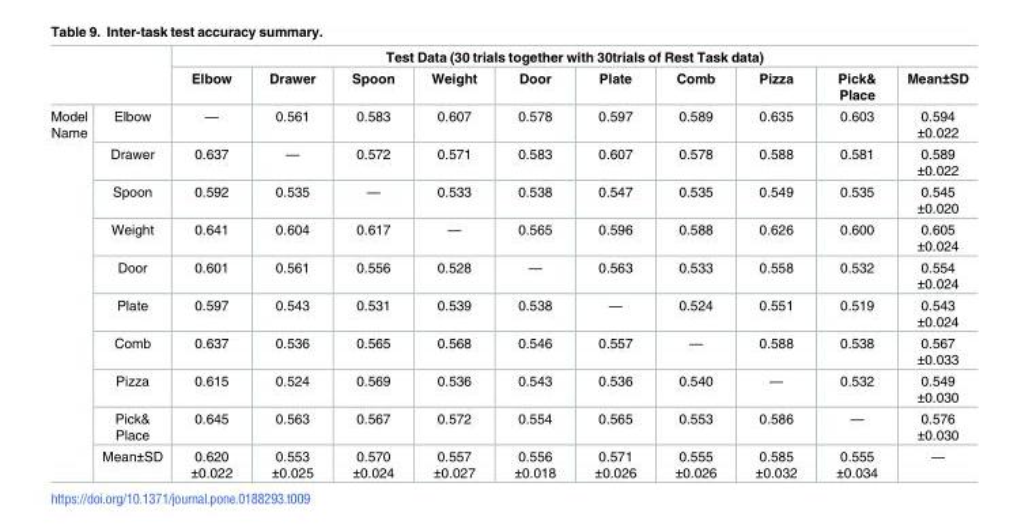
<table><thead><tr><td rowspan="2"></td><td rowspan="2"></td><td colspan="10">Test Data (30 trials together with 30trials of Rest Task data)</td></tr><tr><td>Elbow</td><td>Drawer</td><td>Spoon</td><td>Weight</td><td>Door</td><td>Plate</td><td>Comb</td><td>Pizza</td><td>Pick&amp; Place</td><td>Mean±SD</td></tr></thead><tbody><tr><td rowspan="10">Model Name</td><td>Elbow</td><td>—</td><td>0.561</td><td>0.583</td><td>0.607</td><td>0.578</td><td>0.597</td><td>0.589</td><td>0.635</td><td>0.603</td><td>0.594 ±0.022</td></tr><tr><td>Drawer</td><td>0.637</td><td>—</td><td>0.572</td><td>0.571</td><td>0.583</td><td>0.607</td><td>0.578</td><td>0.588</td><td>0.581</td><td>0.589 ±0.022</td></tr><tr><td>Spoon</td><td>0.592</td><td>0.535</td><td>—</td><td>0.533</td><td>0.538</td><td>0.547</td><td>0.535</td><td>0.549</td><td>0.535</td><td>0.545 ±0.020</td></tr><tr><td>Weight</td><td>0.641</td><td>0.604</td><td>0.617</td><td>—</td><td>0.565</td><td>0.596</td><td>0.588</td><td>0.626</td><td>0.600</td><td>0.605 ±0.024</td></tr><tr><td>Door</td><td>0.601</td><td>0.561</td><td>0.556</td><td>0.528</td><td>—</td><td>0.563</td><td>0.533</td><td>0.558</td><td>0.532</td><td>0.554 ±0.024</td></tr><tr><td>Plate</td><td>0.597</td><td>0.543</td><td>0.531</td><td>0.539</td><td>0.538</td><td>—</td><td>0.524</td><td>0.551</td><td>0.519</td><td>0.543 ±0.024</td></tr><tr><td>Comb</td><td>0.637</td><td>0.536</td><td>0.565</td><td>0.568</td><td>0.546</td><td>0.557</td><td>—</td><td>0.588</td><td>0.538</td><td>0.567 ±0.033</td></tr><tr><td>Pizza</td><td>0.615</td><td>0.524</td><td>0.569</td><td>0.536</td><td>0.543</td><td>0.536</td><td>0.540</td><td>—</td><td>0.532</td><td>0.549 ±0.030</td></tr><tr><td>Pick&amp; Place</td><td>0.645</td><td>0.563</td><td>0.567</td><td>0.572</td><td>0.554</td><td>0.565</td><td>0.553</td><td>0.586</td><td>—</td><td>0.576 ±0.030</td></tr><tr><td>Mean±SD</td><td>0.620 ±0.022</td><td>0.553 ±0.025</td><td>0.570 ±0.024</td><td>0.557 ±0.027</td><td>0.556 ±0.018</td><td>0.571 ±0.026</td><td>0.555 ±0.026</td><td>0.585 ±0.032</td><td>0.555 ±0.034</td><td>—</td></tr></tbody></table>